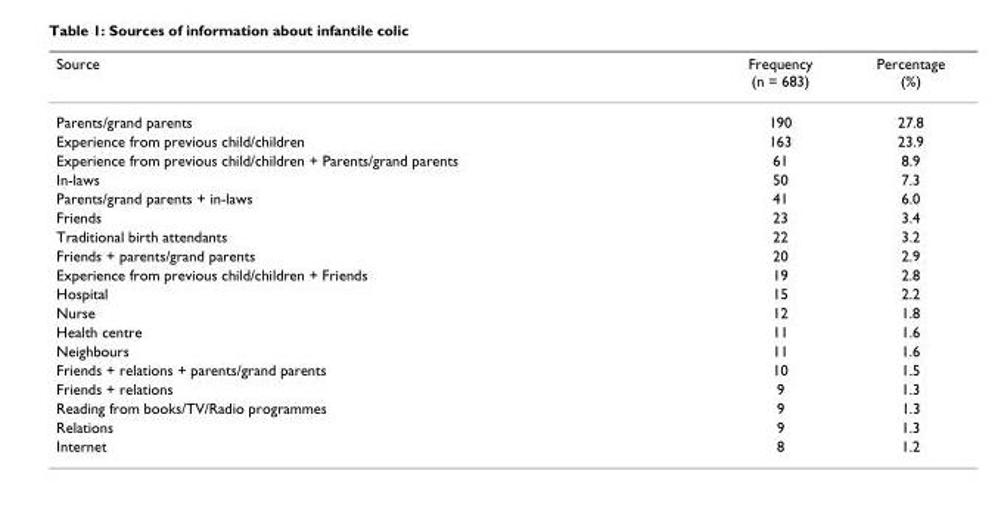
<table><thead><tr><td>Source</td><td>Frequency (n = 683)</td><td>Percentage (%)</td></tr></thead><tbody><tr><td>Parents/grand parents</td><td>190</td><td>27.8</td></tr><tr><td>Experience from previous child/children</td><td>163</td><td>23.9</td></tr><tr><td>Experience from previous child/children + Parents/grand parents</td><td>61</td><td>8.9</td></tr><tr><td>In-laws</td><td>50</td><td>7.3</td></tr><tr><td>Parents/grand parents + in-laws</td><td>41</td><td>6.0</td></tr><tr><td>Friends</td><td>23</td><td>3.4</td></tr><tr><td>Traditional birth attendants</td><td>22</td><td>3.2</td></tr><tr><td>Friends + parents/grand parents</td><td>20</td><td>2.9</td></tr><tr><td>Experience from previous child/children + Friends</td><td>19</td><td>2.8</td></tr><tr><td>Hospital</td><td>15</td><td>2.2</td></tr><tr><td>Nurse</td><td>12</td><td>1.8</td></tr><tr><td>Health centre</td><td>11</td><td>1.6</td></tr><tr><td>Neighbours</td><td>11</td><td>1.6</td></tr><tr><td>Friends + relations + parents/grand parents</td><td>10</td><td>1.5</td></tr><tr><td>Friends + relations</td><td>9</td><td>1.3</td></tr><tr><td>Reading from books/TV/Radio programmes</td><td>9</td><td>1.3</td></tr><tr><td>Relations</td><td>9</td><td>1.3</td></tr><tr><td>Internet</td><td>8</td><td>1.2</td></tr></tbody></table>